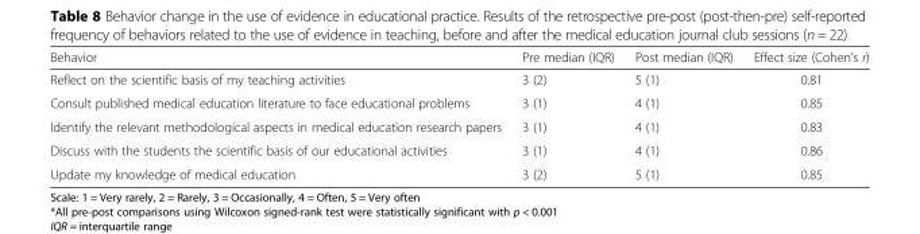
<table><thead><tr><td>Behavior</td><td>Pre median (IQR)</td><td>Post median (IQR)</td><td>Effect size (Cohen’s r)</td></tr></thead><tbody><tr><td>Reflect on the scientific basis of my teaching activities</td><td>3 (2)</td><td>5 (1)</td><td>0.81</td></tr><tr><td>Consult published medical education literature to face educational problems</td><td>3 (1)</td><td>4 (1)</td><td>0.85</td></tr><tr><td>Identify the relevant methodological aspects in medical education research papers</td><td>3 (1)</td><td>4 (1)</td><td>0.83</td></tr><tr><td>Discuss with the students the scientific basis of our educational activities</td><td>3 (1)</td><td>4 (1)</td><td>0.86</td></tr><tr><td>Update my knowledge of medical education</td><td>3 (2)</td><td>5 (1)</td><td>0.85</td></tr></tbody></table>